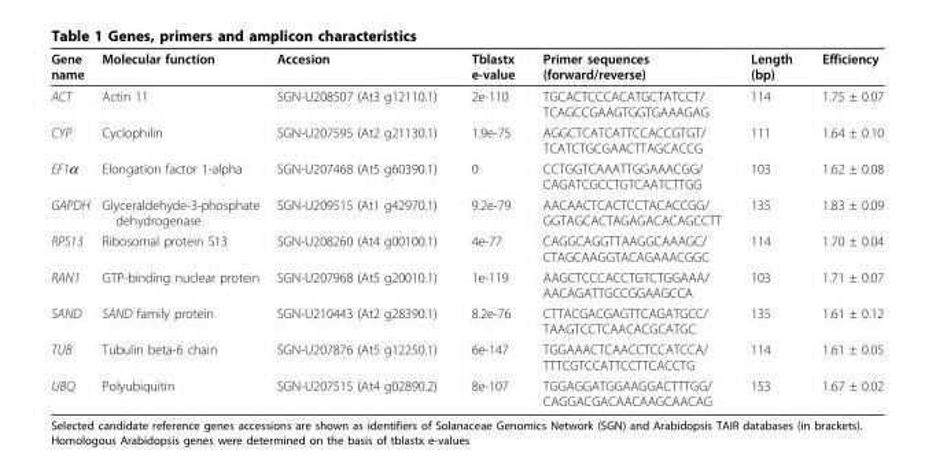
<table><tbody><tr><td>Gene name</td><td>Molecular function</td><td>Accesion</td><td>Tblastx e-value</td><td>Primer sequences (forward/reverse)</td><td>Length (bp)</td><td>Efficiency</td></tr><tr><td>ACT</td><td>Actin 11</td><td>SGN-U208507 (At3 g12110.1)</td><td>2e-110</td><td>TGCACTCCCACATGCTATCCT/ TCAGCCGAAGTGGTGAAAGAG</td><td>114</td><td>1.75 ± 0.07</td></tr><tr><td>CYP</td><td>Cyclophilin</td><td>SGN-U207595 (At2 g21130.1)</td><td>1.9e-75</td><td>AGGCTCATCATTCCACCGTGT/ TCATCTGCGAACTTAGCACCG</td><td>111</td><td>1.64 ± 0.10</td></tr><tr><td>EF1α</td><td>Elongation factor 1-alpha</td><td>SGN-U207468 (At5 g60390.1)</td><td>0</td><td>CCTGGTCAAATTGGAAACGG/ CAGATCGCCTGTCAATCTTGG</td><td>103</td><td>1.62 ± 0.08</td></tr><tr><td>GAPDH</td><td>Glyceraldehyde-3-phosphate dehydrogenase</td><td>SGN-U209515 (At1 g42970.1)</td><td>9.2e-79</td><td>AACAACTCACTCCTACACCGG/ GGTAGCACTAGAGACACAGCCTT</td><td>135</td><td>1.83 ± 0.09</td></tr><tr><td>RPS13</td><td>Ribosomal protein S13</td><td>SGN-U208260 (At4 g00100.1)</td><td>4e-77</td><td>CAGGCAGGTTAAGGCAAAGC/ CTAGCAAGGTACAGAAACGGC</td><td>114</td><td>1.70 ± 0.04</td></tr><tr><td>RAN1</td><td>GTP-binding nuclear protein</td><td>SGN-U207968 (At5 g20010.1)</td><td>1e-119</td><td>AAGCTCCCACCTGTCTGGAAA/ AACAGATTGCCGGAAGCCA</td><td>103</td><td>1.71 ± 0.07</td></tr><tr><td>SAND</td><td>SAND family protein</td><td>SGN-U210443 (At2 g28390.1)</td><td>8.2e-76</td><td>CTTACGACGAGTTCAGATGCC/ TAAGTCCTCAACACGCATGC</td><td>135</td><td>1.61 ± 0.12</td></tr><tr><td>TUB</td><td>Tubulin beta-6 chain</td><td>SGN-U207876 (At5 g12250.1)</td><td>6e-147</td><td>TGGAAACTCAACCTCCATCCA/ TTTCGTCCATTCCTTCACCTG</td><td>114</td><td>1.61 ± 0.05</td></tr><tr><td>UBQ</td><td>Polyubiquitin</td><td>SGN-U207515 (At4 g02890.2)</td><td>8e-107</td><td>TGGAGGATGGAAGGACTTTGG/ CAGGACGACAACAAGCAACAG</td><td>153</td><td>1.67 ± 0.02</td></tr></tbody></table>